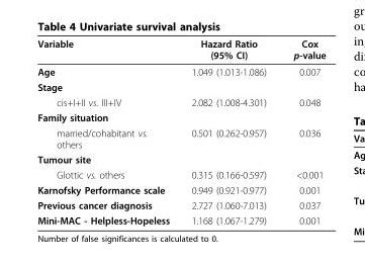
<table><thead><tr><td>Variable</td><td>Hazard Ratio (95% CI)</td><td>Cox p-value</td></tr></thead><tbody><tr><td>Age</td><td>1.049 (1.013-1.086)</td><td>0.007</td></tr><tr><td colspan="3">Stage</td></tr><tr><td>cis+I+II vs. III+IV</td><td>2.082 (1.008-4.301)</td><td>0.048</td></tr><tr><td colspan="3">Family situation</td></tr><tr><td>married/cohabitant vs. others</td><td>0.501 (0.262-0.957)</td><td>0.036</td></tr><tr><td colspan="3">Tumour site</td></tr><tr><td>Glottic vs. others</td><td>0.315 (0.166-0.597)</td><td>&lt;0.001</td></tr><tr><td>Karnofsky Performance scale</td><td>0.949 (0.921-0.977)</td><td>0.001</td></tr><tr><td>Previous cancer diagnosis</td><td>2.727 (1.060-7.013)</td><td>0.037</td></tr><tr><td>Mini-MAC - Helpless-Hopeless</td><td>1.168 (1.067-1.279)</td><td>0.001</td></tr></tbody></table>